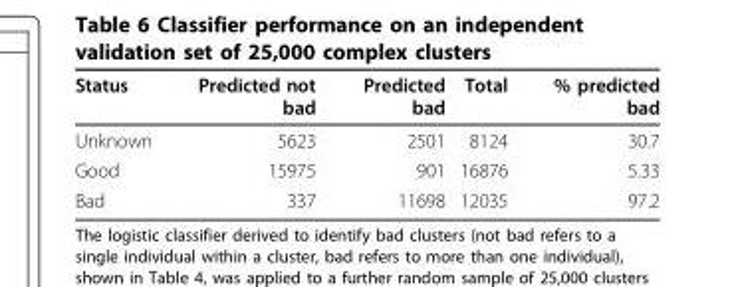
<table><thead><tr><td>Status</td><td>Predicted not bad</td><td>Predicted bad</td><td>Total</td><td>% predicted bad</td></tr></thead><tbody><tr><td>Unknown</td><td>5623</td><td>2501</td><td>8124</td><td>30.7</td></tr><tr><td>Good</td><td>15975</td><td>901</td><td>16876</td><td>5.33</td></tr><tr><td>Bad</td><td>337</td><td>11698</td><td>12035</td><td>97.2</td></tr></tbody></table>